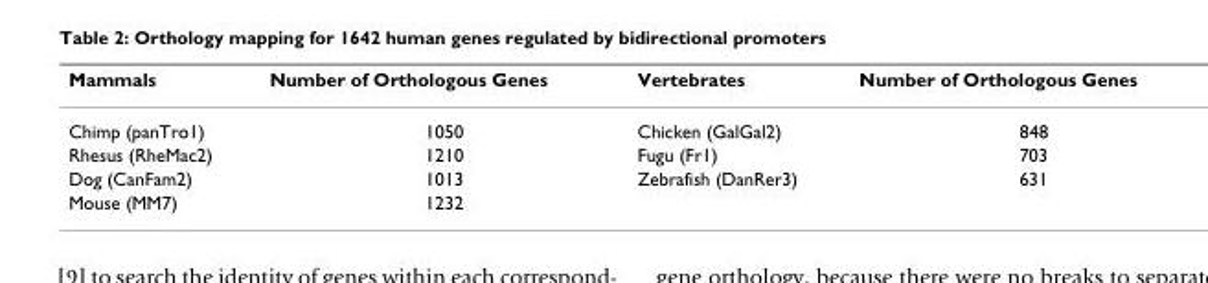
<table><thead><tr><td>Mammals</td><td>Number of Orthologous Genes</td><td>Vertebrates</td><td>Number of Orthologous Genes</td></tr></thead><tbody><tr><td>Chimp (panTro1)</td><td>1050</td><td>Chicken (GalGal2)</td><td>848</td></tr><tr><td>Rhesus (RheMac2)</td><td>1210</td><td>Fugu (Fr1)</td><td>703</td></tr><tr><td>Dog (CanFam2)</td><td>1013</td><td>Zebrafish (DanRer3)</td><td>631</td></tr><tr><td>Mouse (MM7)</td><td>1232</td><td></td><td></td></tr></tbody></table>